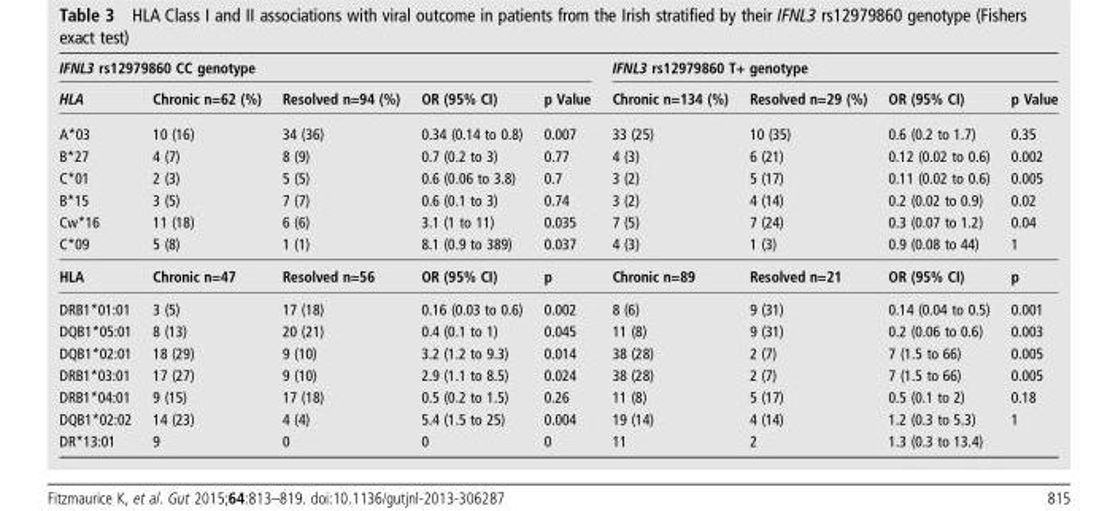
<table><thead><tr><td colspan="5">IFNL3 rs12979860 CC genotype</td><td colspan="4">IFNL3 rs12979860 T+ genotype</td></tr><tr><td>HLA</td><td>Chronic n=62 (%)</td><td>Resolved n=94 (%)</td><td>OR (95% CI)</td><td>p Value</td><td>Chronic n=134 (%)</td><td>Resolved n=29 (%)</td><td>OR (95% CI)</td><td>p Value</td></tr></thead><tbody><tr><td>A*03</td><td>10 (16)</td><td>34 (36)</td><td>0.34 (0.14 to 0.8)</td><td>0.007</td><td>33 (25)</td><td>10 (35)</td><td>0.6 (0.2 to 1.7)</td><td>0.35</td></tr><tr><td>B*27</td><td>4 (7)</td><td>8 (9)</td><td>0.7 (0.2 to 3)</td><td>0.77</td><td>4 (3)</td><td>6 (21)</td><td>0.12 (0.02 to 0.6)</td><td>0.002</td></tr><tr><td>C*01</td><td>2 (3)</td><td>5 (5)</td><td>0.6 (0.06 to 3.8)</td><td>0.7</td><td>3 (2)</td><td>5 (17)</td><td>0.11 (0.02 to 0.6)</td><td>0.005</td></tr><tr><td>B*15</td><td>3 (5)</td><td>7 (7)</td><td>0.6 (0.1 to 3)</td><td>0.74</td><td>3 (2)</td><td>4 (14)</td><td>0.2 (0.02 to 0.9)</td><td>0.02</td></tr><tr><td>Cw*16</td><td>11 (18)</td><td>6 (6)</td><td>3.1 (1 to 11)</td><td>0.035</td><td>7 (5)</td><td>7 (24)</td><td>0.3 (0.07 to 1.2)</td><td>0.04</td></tr><tr><td>C*09</td><td>5 (8)</td><td>1 (1)</td><td>8.1 (0.9 to 389)</td><td>0.037</td><td>4 (3)</td><td>1 (3)</td><td>0.9 (0.08 to 44)</td><td>1</td></tr><tr><td>HLA</td><td>Chronic n=47</td><td>Resolved n=56</td><td>OR (95% CI)</td><td>p</td><td>Chronic n=89</td><td>Resolved n=21</td><td>OR (95% CI)</td><td>p</td></tr><tr><td>DRB1*01:01</td><td>3 (5)</td><td>17 (18)</td><td>0.16 (0.03 to 0.6)</td><td>0.002</td><td>8 (6)</td><td>9 (31)</td><td>0.14 (0.04 to 0.5)</td><td>0.001</td></tr><tr><td>DQB1*05:01</td><td>8 (13)</td><td>20 (21)</td><td>0.4 (0.1 to 1)</td><td>0.045</td><td>11 (8)</td><td>9 (31)</td><td>0.2 (0.06 to 0.6)</td><td>0.003</td></tr><tr><td>DQB1*02:01</td><td>18 (29)</td><td>9 (10)</td><td>3.2 (1.2 to 9.3)</td><td>0.014</td><td>38 (28)</td><td>2 (7)</td><td>7 (1.5 to 66)</td><td>0.005</td></tr><tr><td>DRB1*03:01</td><td>17 (27)</td><td>9 (10)</td><td>2.9 (1.1 to 8.5)</td><td>0.024</td><td>38 (28)</td><td>2 (7)</td><td>7 (1.5 to 66)</td><td>0.005</td></tr><tr><td>DRB1*04:01</td><td>9 (15)</td><td>17 (18)</td><td>0.5 (0.2 to 1.5)</td><td>0.26</td><td>11 (8)</td><td>5 (17)</td><td>0.5 (0.1 to 2)</td><td>0.18</td></tr><tr><td>DQB1*02:02</td><td>14 (23)</td><td>4 (4)</td><td>5.4 (1.5 to 25)</td><td>0.004</td><td>19 (14)</td><td>4 (14)</td><td>1.2 (0.3 to 5.3)</td><td>1</td></tr><tr><td>DR*13:01</td><td>9</td><td>0</td><td>0</td><td>0</td><td>11</td><td>2</td><td>1.3 (0.3 to 13.4)</td><td></td></tr></tbody></table>